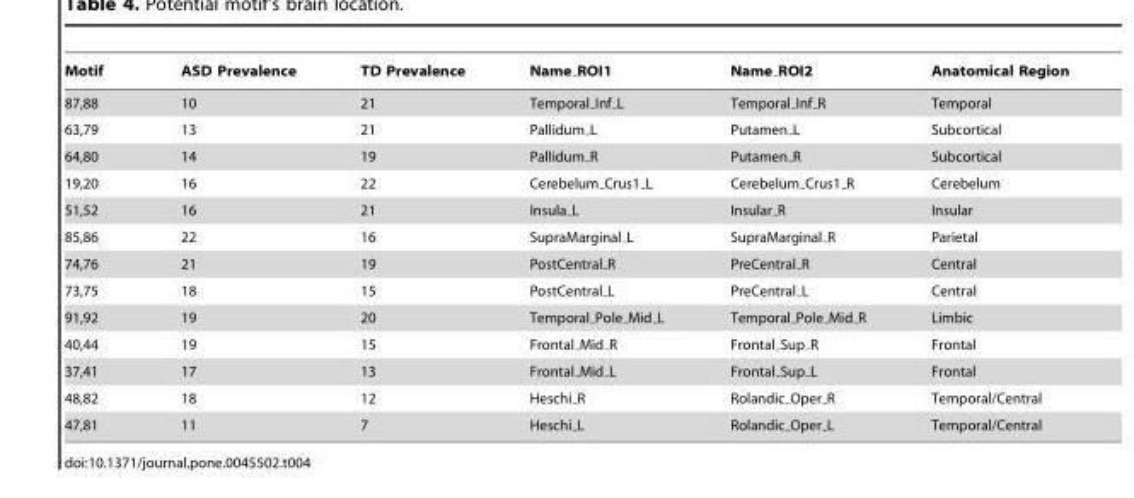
<table><thead><tr><td>Motif</td><td>ASD Prevalence</td><td>TD Prevalence</td><td>Name ROI1</td><td>Name ROI2</td><td>Anatomical Region</td></tr></thead><tbody><tr><td>87,88</td><td>10</td><td>21</td><td>Temporal Inf L</td><td>Temporal Inf R</td><td>Temporal</td></tr><tr><td>63,79</td><td>13</td><td>21</td><td>Pallidum L</td><td>Putamen L</td><td>Subcortical</td></tr><tr><td>64,80</td><td>14</td><td>19</td><td>Pallidum R</td><td>Putamen R</td><td>Subcortical</td></tr><tr><td>19,20</td><td>16</td><td>22</td><td>Cerebelum Crus1 L</td><td>Cerebelum Crus1 R</td><td>Cerebelum</td></tr><tr><td>51,52</td><td>16</td><td>21</td><td>Insula L</td><td>Insular R</td><td>Insular</td></tr><tr><td>85,86</td><td>22</td><td>16</td><td>SupraMarginal L</td><td>SupraMarginal R</td><td>Parietal</td></tr><tr><td>74,76</td><td>21</td><td>19</td><td>PostCentral R</td><td>PreCentral R</td><td>Central</td></tr><tr><td>73,75</td><td>18</td><td>15</td><td>PostCentral L</td><td>PreCentral L</td><td>Central</td></tr><tr><td>91,92</td><td>19</td><td>20</td><td>Temporal Pole Mid L</td><td>Temporal Pole Mid R</td><td>Limbic</td></tr><tr><td>40,44</td><td>19</td><td>15</td><td>Frontal Mid R</td><td>Frontal Sup R</td><td>Frontal</td></tr><tr><td>37,41</td><td>17</td><td>13</td><td>Frontal Mid L</td><td>Frontal Sup L</td><td>Frontal</td></tr><tr><td>48,82</td><td>18</td><td>12</td><td>Heschi R</td><td>Rolandic Oper R</td><td>Temporal/Central</td></tr><tr><td>47,81</td><td>11</td><td>7</td><td>Heschi L</td><td>Rolandic Oper L</td><td>Temporal/Central</td></tr></tbody></table>